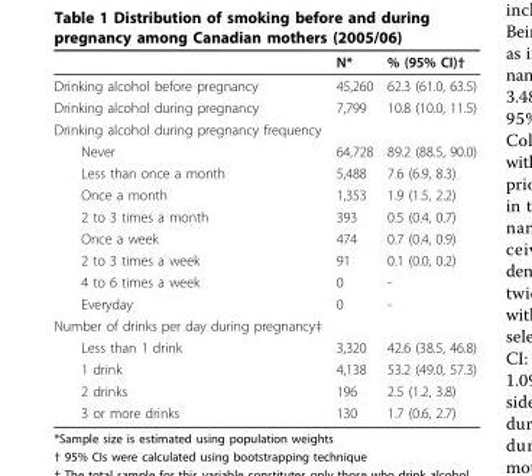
<table><thead><tr><td></td><td>N*</td><td>% (95% CI)†</td></tr></thead><tbody><tr><td>Drinking alcohol before pregnancy</td><td>45,260</td><td>62.3 (61.0, 63.5)</td></tr><tr><td>Drinking alcohol during pregnancy</td><td>7,799</td><td>10.8 (10.0, 11.5)</td></tr><tr><td colspan="3">Drinking alcohol during pregnancy frequency</td></tr><tr><td>Never</td><td>64,728</td><td>89.2 (88.5, 90.0)</td></tr><tr><td>Less than once a month</td><td>5,488</td><td>7.6 (6.9, 8.3)</td></tr><tr><td>Once a month</td><td>1,353</td><td>1.9 (1.5, 2.2)</td></tr><tr><td>2 to 3 times a month</td><td>393</td><td>0.5 (0.4, 0.7)</td></tr><tr><td>Once a week</td><td>474</td><td>0.7 (0.4, 0.9)</td></tr><tr><td>2 to 3 times a week</td><td>91</td><td>0.1 (0.0, 0.2)</td></tr><tr><td>4 to 6 times a week</td><td>0</td><td>-</td></tr><tr><td>Everyday</td><td>0</td><td>-</td></tr><tr><td colspan="3">Number of drinks per day during pregnancy‡</td></tr><tr><td>Less than 1 drink</td><td>3,320</td><td>42.6 (38.5, 46.8)</td></tr><tr><td>1 drink</td><td>4,138</td><td>53.2 (49.0, 57.3)</td></tr><tr><td>2 drinks</td><td>196</td><td>2.5 (1.2, 3.8)</td></tr><tr><td>3 or more drinks</td><td>130</td><td>1.7 (0.6, 2.7)</td></tr></tbody></table>